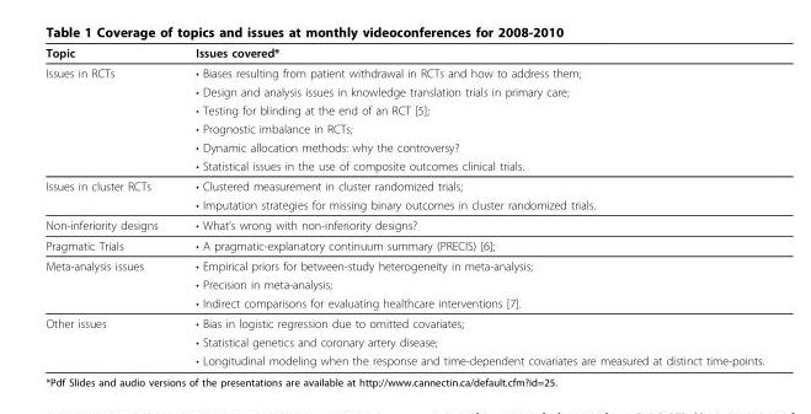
<table><thead><tr><td>Topic</td><td>Issues covered*</td></tr></thead><tbody><tr><td rowspan="6">Issues in RCTs</td><td>• Biases resulting from patient withdrawal in RCTs and how to address them;</td></tr><tr><td>• Design and analysis issues in knowledge translation trials in primary care;</td></tr><tr><td>• Testing for blinding at the end of an RCT [5];</td></tr><tr><td>• Prognostic imbalance in RCTs;</td></tr><tr><td>• Dynamic allocation methods: why the controversy?</td></tr><tr><td>• Statistical issues in the use of composite outcomes clinical trials.</td></tr><tr><td rowspan="2">Issues in cluster RCTs</td><td>• Clustered measurement in cluster randomized trials;</td></tr><tr><td>• Imputation strategies for missing binary outcomes in cluster randomized trials.</td></tr><tr><td>Non-inferiority designs</td><td>• What’s wrong with non-inferiority designs?</td></tr><tr><td>Pragmatic Trials</td><td>• A pragmatic-explanatory continuum summary (PRECIS) [6];</td></tr><tr><td rowspan="3">Meta-analysis issues</td><td>• Empirical priors for between-study heterogeneity in meta-analysis;</td></tr><tr><td>• Precision in meta-analysis;</td></tr><tr><td>• Indirect comparisons for evaluating healthcare interventions [7].</td></tr><tr><td rowspan="3">Other issues</td><td>• Bias in logistic regression due to omitted covariates;</td></tr><tr><td>• Statistical genetics and coronary artery disease;</td></tr><tr><td>• Longitudinal modeling when the response and time-dependent covariates are measured at distinct time-points.</td></tr></tbody></table>